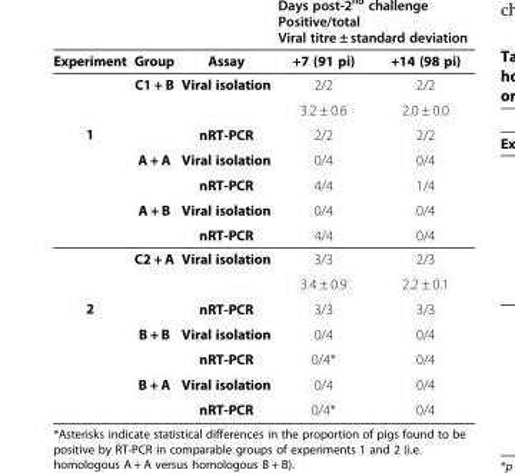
<table><tbody><tr><td>Experiment</td><td>Group</td><td>Assay</td><td>+7 (91 pi)</td><td>+14 (98 pi)</td></tr><tr><td rowspan="7">1</td><td rowspan="3">C1 + B</td><td rowspan="2">Viral isolation</td><td>2/2</td><td>2/2</td></tr><tr><td>3.2 ± 0.6</td><td>2.0 ± 0.0</td></tr><tr><td>nRT-PCR</td><td>2/2</td><td>2/2</td></tr><tr><td rowspan="2">A + A</td><td>Viral isolation</td><td>0/4</td><td>0/4</td></tr><tr><td>nRT-PCR</td><td>4/4</td><td>1/4</td></tr><tr><td rowspan="2">A + B</td><td>Viral isolation</td><td>0/4</td><td>0/4</td></tr><tr><td>nRT-PCR</td><td>4/4</td><td>0/4</td></tr><tr><td rowspan="7">2</td><td rowspan="3">C2 + A</td><td rowspan="2">Viral isolation</td><td>3/3</td><td>2/3</td></tr><tr><td>3.4 ± 0.9</td><td>2.2 ± 0.1</td></tr><tr><td>nRT-PCR</td><td>3/3</td><td>3/3</td></tr><tr><td rowspan="2">B + B</td><td>Viral isolation</td><td>0/4</td><td>0/4</td></tr><tr><td>nRT-PCR</td><td>0/4*</td><td>0/4</td></tr><tr><td rowspan="2">B + A</td><td>Viral isolation</td><td>0/4</td><td>0/4</td></tr><tr><td>nRT-PCR</td><td>0/4*</td><td>0/4</td></tr></tbody></table>